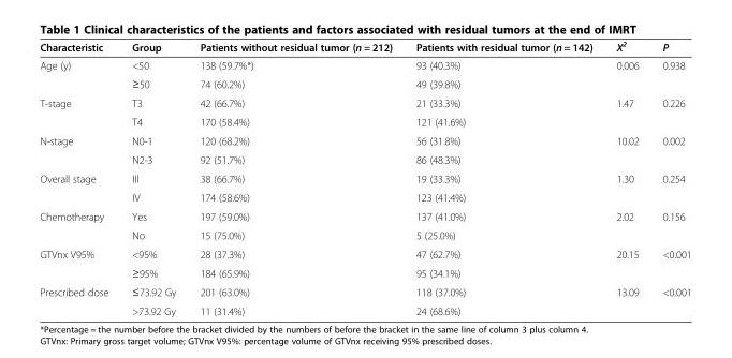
<table><thead><tr><td>Characteristic</td><td>Group</td><td>Patients without residual tumor (n = 212)</td><td>Patients with residual tumor (n = 142)</td><td>Χ<sup>2</sup></td><td>P</td></tr></thead><tbody><tr><td rowspan="2">Age (y)</td><td>&lt;50</td><td>138 (59.7%*)</td><td>93 (40.3%)</td><td rowspan="2">0.006</td><td rowspan="2">0.938</td></tr><tr><td>≥50</td><td>74 (60.2%)</td><td>49 (39.8%)</td></tr><tr><td rowspan="2">T-stage</td><td>T3</td><td>42 (66.7%)</td><td>21 (33.3%)</td><td rowspan="2">1.47</td><td rowspan="2">0.226</td></tr><tr><td>T4</td><td>170 (58.4%)</td><td>121 (41.6%)</td></tr><tr><td rowspan="2">N-stage</td><td>N0-1</td><td>120 (68.2%)</td><td>56 (31.8%)</td><td rowspan="2">10.02</td><td rowspan="2">0.002</td></tr><tr><td>N2-3</td><td>92 (51.7%)</td><td>86 (48.3%)</td></tr><tr><td rowspan="2">Overall stage</td><td>III</td><td>38 (66.7%)</td><td>19 (33.3%)</td><td rowspan="2">1.30</td><td rowspan="2">0.254</td></tr><tr><td>IV</td><td>174 (58.6%)</td><td>123 (41.4%)</td></tr><tr><td rowspan="2">Chemotherapy</td><td>Yes</td><td>197 (59.0%)</td><td>137 (41.0%)</td><td rowspan="2">2.02</td><td rowspan="2">0.156</td></tr><tr><td>No</td><td>15 (75.0%)</td><td>5 (25.0%)</td></tr><tr><td rowspan="2">GTVnx V95%</td><td>&lt;95%</td><td>28 (37.3%)</td><td>47 (62.7%)</td><td rowspan="2">20.15</td><td rowspan="2">&lt;0.001</td></tr><tr><td>≥95%</td><td>184 (65.9%)</td><td>95 (34.1%)</td></tr><tr><td rowspan="2">Prescribed dose</td><td>≤73.92 Gy</td><td>201 (63.0%)</td><td>118 (37.0%)</td><td rowspan="2">13.09</td><td rowspan="2">&lt;0.001</td></tr><tr><td>&gt;73.92 Gy</td><td>11 (31.4%)</td><td>24 (68.6%)</td></tr></tbody></table>